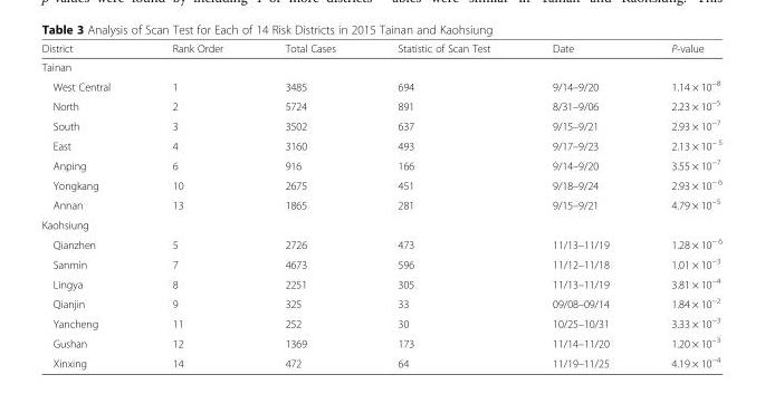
<table><thead><tr><td>District</td><td>Rank Order</td><td>Total Cases</td><td>Statistic of Scan Test</td><td>Date</td><td>P-value</td></tr></thead><tbody><tr><td colspan="6">Tainan</td></tr><tr><td>West Central</td><td>1</td><td>3485</td><td>694</td><td>9/14–9/20</td><td>1.14 × 10<sup>−8</sup></td></tr><tr><td>North</td><td>2</td><td>5724</td><td>891</td><td>8/31–9/06</td><td>2.23 × 10<sup>−5</sup></td></tr><tr><td>South</td><td>3</td><td>3502</td><td>637</td><td>9/15–9/21</td><td>2.93 × 10<sup>−7</sup></td></tr><tr><td>East</td><td>4</td><td>3160</td><td>493</td><td>9/17–9/23</td><td>2.13 × 10<sup>− 5</sup></td></tr><tr><td>Anping</td><td>6</td><td>916</td><td>166</td><td>9/14–9/20</td><td>3.55 × 10<sup>−7</sup></td></tr><tr><td>Yongkang</td><td>10</td><td>2675</td><td>451</td><td>9/18–9/24</td><td>2.93 × 10<sup>− 6</sup></td></tr><tr><td>Annan</td><td>13</td><td>1865</td><td>281</td><td>9/15–9/21</td><td>4.79 × 10<sup>−5</sup></td></tr><tr><td colspan="6">Kaohsiung</td></tr><tr><td>Qianzhen</td><td>5</td><td>2726</td><td>473</td><td>11/13–11/19</td><td>1.28 × 10<sup>− 6</sup></td></tr><tr><td>Sanmin</td><td>7</td><td>4673</td><td>596</td><td>11/12–11/18</td><td>1.01 × 10<sup>−3</sup></td></tr><tr><td>Lingya</td><td>8</td><td>2251</td><td>305</td><td>11/13–11/19</td><td>3.81 × 10<sup>−4</sup></td></tr><tr><td>Qianjin</td><td>9</td><td>325</td><td>33</td><td>09/08–09/14</td><td>1.84 × 10<sup>−2</sup></td></tr><tr><td>Yancheng</td><td>11</td><td>252</td><td>30</td><td>10/25–10/31</td><td>3.33 × 10<sup>−3</sup></td></tr><tr><td>Gushan</td><td>12</td><td>1369</td><td>173</td><td>11/14–11/20</td><td>1.20 × 10<sup>−3</sup></td></tr><tr><td>Xinxing</td><td>14</td><td>472</td><td>64</td><td>11/19–11/25</td><td>4.19 × 10<sup>−4</sup></td></tr></tbody></table>